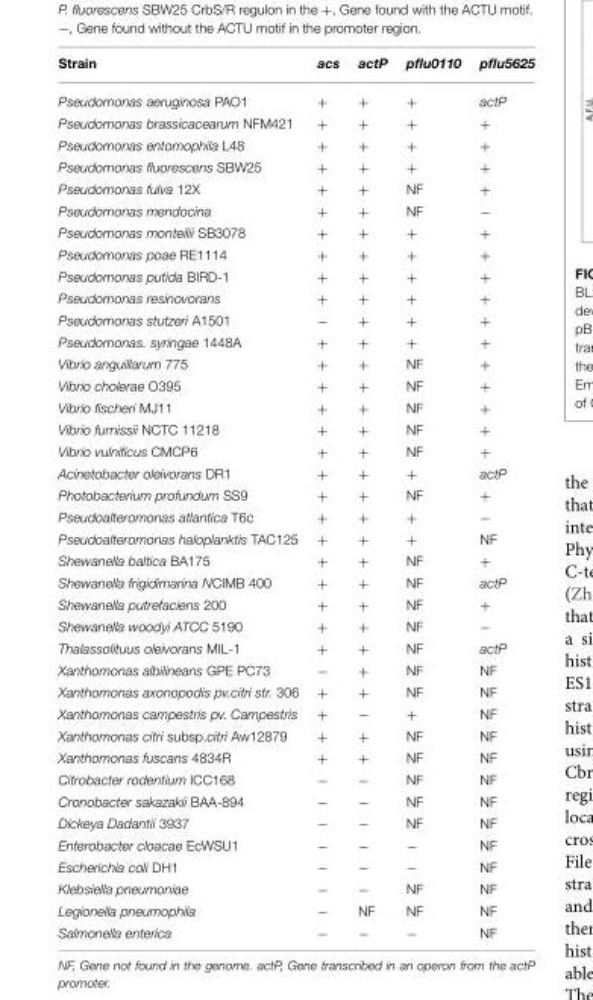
<table><thead><tr><td>Strain</td><td>acs</td><td>actP</td><td>pflu0110</td><td>pflu5625</td></tr></thead><tbody><tr><td>Pseudomonas aeruginosa PAO1</td><td>+</td><td>+</td><td>+</td><td>actP</td></tr><tr><td>Pseudomonas brassicacearum NFM421</td><td>+</td><td>+</td><td>+</td><td>+</td></tr><tr><td>Pseudomonas entomophila L48</td><td>+</td><td>+</td><td>+</td><td>+</td></tr><tr><td>Pseudomonas fluorescens SBW25</td><td>+</td><td>+</td><td>+</td><td>+</td></tr><tr><td>Pseudomonas fulva 12X</td><td>+</td><td>+</td><td>NF</td><td>+</td></tr><tr><td>Pseudomonas mendocina</td><td>+</td><td>+</td><td>NF</td><td>−</td></tr><tr><td>Pseudomonas monteilii SB3078</td><td>+</td><td>+</td><td>+</td><td>+</td></tr><tr><td>Pseudomonas poae RE1114</td><td>+</td><td>+</td><td>+</td><td>+</td></tr><tr><td>Pseudomonas putida BIRD-1</td><td>+</td><td>+</td><td>+</td><td>+</td></tr><tr><td>Pseudomonas resinovorans</td><td>+</td><td>+</td><td>+</td><td>+</td></tr><tr><td>Pseudomonas stutzeri A1501</td><td>−</td><td>+</td><td>+</td><td>+</td></tr><tr><td>Pseudomonas. syringae 1448A</td><td>+</td><td>+</td><td>+</td><td>+</td></tr><tr><td>Vibrio anguillarum 775</td><td>+</td><td>+</td><td>NF</td><td>+</td></tr><tr><td>Vibrio cholerae O395</td><td>+</td><td>+</td><td>NF</td><td>+</td></tr><tr><td>Vibrio fischeri MJ11</td><td>+</td><td>+</td><td>NF</td><td>+</td></tr><tr><td>Vibrio furnissii NCTC 11218</td><td>+</td><td>+</td><td>NF</td><td>+</td></tr><tr><td>Vibrio vulnificus CMCP6</td><td>+</td><td>+</td><td>NF</td><td>+</td></tr><tr><td>Acinetobacter oleivorans DR1</td><td>+</td><td>+</td><td>+</td><td>actP</td></tr><tr><td>Photobacterium profundum SS9</td><td>+</td><td>+</td><td>NF</td><td>+</td></tr><tr><td>Pseudoalteromonas atlantica T6c</td><td>+</td><td>+</td><td>+</td><td>−</td></tr><tr><td>Pseudoalteromonas haloplanktis TAC125</td><td>+</td><td>+</td><td>+</td><td>NF</td></tr><tr><td>Shewanella baltica BA175</td><td>+</td><td>+</td><td>NF</td><td>+</td></tr><tr><td>Shewanella frigidimarina NCIMB 400</td><td>+</td><td>+</td><td>NF</td><td>actP</td></tr><tr><td>Shewanella putrefaciens 200</td><td>+</td><td>+</td><td>NF</td><td>+</td></tr><tr><td>Shewanella woodyi ATCC 5190</td><td>+</td><td>+</td><td>NF</td><td>−</td></tr><tr><td>Thalassolituus oleivorans MIL-1</td><td>+</td><td>+</td><td>NF</td><td>actP</td></tr><tr><td>Xanthomonas albilineans GPE PC73</td><td>−</td><td>+</td><td>NF</td><td>NF</td></tr><tr><td>Xanthomonas axonopodis pv.citri str. 306</td><td>+</td><td>+</td><td>NF</td><td>NF</td></tr><tr><td>Xanthomonas campestris pv. Campestris</td><td>+</td><td>−</td><td>+</td><td>NF</td></tr><tr><td>Xanthomonas citri subsp.citri Aw12879</td><td>+</td><td>+</td><td>NF</td><td>NF</td></tr><tr><td>Xanthomonas fuscans 4834R</td><td>+</td><td>+</td><td>NF</td><td>NF</td></tr><tr><td>Citrobacter rodentium ICC168</td><td>−</td><td>−</td><td>NF</td><td>NF</td></tr><tr><td>Cronobacter sakazakii BAA-894</td><td>−</td><td>−</td><td>NF</td><td>NF</td></tr><tr><td>Dickeya Dadantii 3937</td><td>−</td><td>−</td><td>NF</td><td>NF</td></tr><tr><td>Enterobacter cloacae EcWSU1</td><td>−</td><td>−</td><td>−</td><td>NF</td></tr><tr><td>Escherichia coli DH1</td><td>−</td><td>−</td><td>−</td><td>NF</td></tr><tr><td>Klebsiella pneumoniae</td><td>−</td><td>−</td><td>NF</td><td>NF</td></tr><tr><td>Legionella pneumophila</td><td>−</td><td>NF</td><td>NF</td><td>NF</td></tr><tr><td>Salmonella enterica</td><td>−</td><td>−</td><td>−</td><td>NF</td></tr></tbody></table>